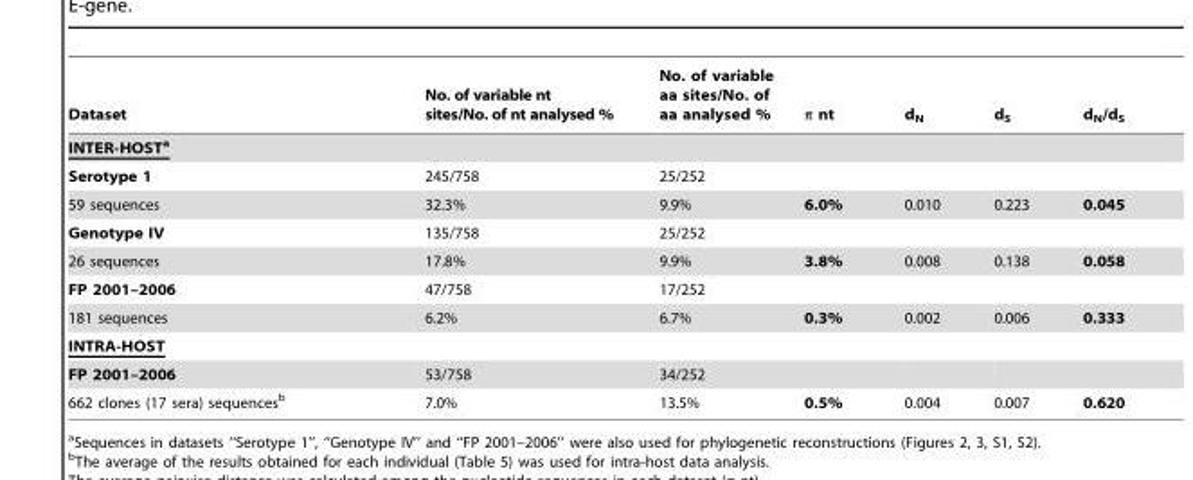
<table><thead><tr><td>Dataset</td><td>No. of variable nt sites/No. of nt analysed %</td><td>No. of variable aa sites/No. of aa analysed %</td><td>π nt</td><td>d<sub>N</sub></td><td>d<sub>S</sub></td><td>d<sub>N</sub>/d<sub>S</sub></td></tr></thead><tbody><tr><td colspan="7">INTER-HOSTa</td></tr><tr><td>Serotype 1</td><td>245/758</td><td>25/252</td><td></td><td></td><td></td><td></td></tr><tr><td>59 sequences</td><td>32.3%</td><td>9.9%</td><td>6.0%</td><td>0.010</td><td>0.223</td><td>0.045</td></tr><tr><td>Genotype IV</td><td>135/758</td><td>25/252</td><td></td><td></td><td></td><td></td></tr><tr><td>26 sequences</td><td>17.8%</td><td>9.9%</td><td>3.8%</td><td>0.008</td><td>0.138</td><td>0.058</td></tr><tr><td>FP 2001–2006</td><td>47/758</td><td>17/252</td><td></td><td></td><td></td><td></td></tr><tr><td>181 sequences</td><td>6.2%</td><td>6.7%</td><td>0.3%</td><td>0.002</td><td>0.006</td><td>0.333</td></tr><tr><td colspan="7">INTRA-HOST</td></tr><tr><td>FP 2001–2006</td><td>53/758</td><td>34/252</td><td></td><td></td><td></td><td></td></tr><tr><td>662 clones (17 sera) sequences<sup>b</sup></td><td>7.0%</td><td>13.5%</td><td>0.5%</td><td>0.004</td><td>0.007</td><td>0.620</td></tr></tbody></table>